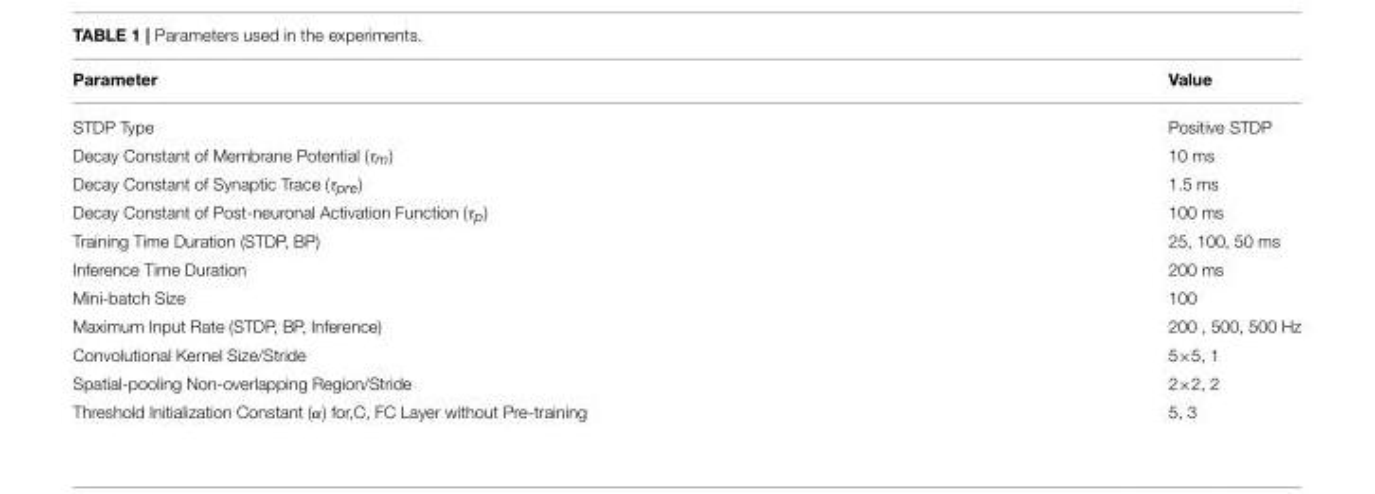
<table><thead><tr><td>Parameter</td><td>Value</td></tr></thead><tbody><tr><td>STDP Type</td><td>Positive STDP</td></tr><tr><td>Decay Constant of Membrane Potential (τ<sub>m</sub>)</td><td>10 ms</td></tr><tr><td>Decay Constant of Synaptic Trace (τ<sub>pre</sub>)</td><td>1.5 ms</td></tr><tr><td>Decay Constant of Post-neuronal Activation Function (τ<sub>p</sub>)</td><td>100 ms</td></tr><tr><td>Training Time Duration (STDP, BP)</td><td>25, 100, 50 ms</td></tr><tr><td>Inference Time Duration</td><td>200 ms</td></tr><tr><td>Mini-batch Size</td><td>100</td></tr><tr><td>Maximum Input Rate (STDP, BP, Inference)</td><td>200 , 500, 500 Hz</td></tr><tr><td>Convolutional Kernel Size/Stride</td><td>5×5, 1</td></tr><tr><td>Spatial-pooling Non-overlapping Region/Stride</td><td>2×2, 2</td></tr><tr><td>Threshold Initialization Constant (α) for,C, FC Layer without Pre-training</td><td>5, 3</td></tr></tbody></table>